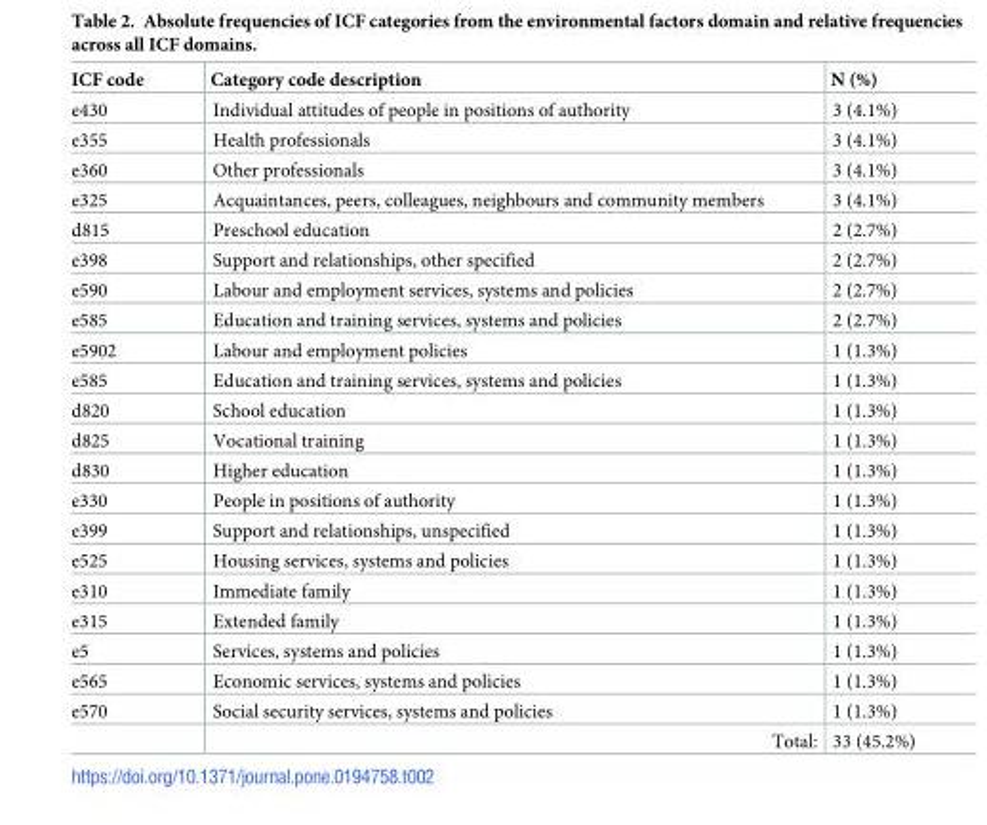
<table><thead><tr><td>ICF code</td><td>Category code description</td><td>N (%)</td></tr></thead><tbody><tr><td>e430</td><td>Individual attitudes of people in positions of authority</td><td>3 (4.1%)</td></tr><tr><td>e355</td><td>Health professionals</td><td>3 (4.1%)</td></tr><tr><td>e360</td><td>Other professionals</td><td>3 (4.1%)</td></tr><tr><td>e325</td><td>Acquaintances, peers, colleagues, neighbours and community members</td><td>3 (4.1%)</td></tr><tr><td>d815</td><td>Preschool education</td><td>2 (2.7%)</td></tr><tr><td>e398</td><td>Support and relationships, other specified</td><td>2 (2.7%)</td></tr><tr><td>e590</td><td>Labour and employment services, systems and policies</td><td>2 (2.7%)</td></tr><tr><td>e585</td><td>Education and training services, systems and policies</td><td>2 (2.7%)</td></tr><tr><td>e5902</td><td>Labour and employment policies</td><td>1 (1.3%)</td></tr><tr><td>e585</td><td>Education and training services, systems and policies</td><td>1 (1.3%)</td></tr><tr><td>d820</td><td>School education</td><td>1 (1.3%)</td></tr><tr><td>d825</td><td>Vocational training</td><td>1 (1.3%)</td></tr><tr><td>d830</td><td>Higher education</td><td>1 (1.3%)</td></tr><tr><td>e330</td><td>People in positions of authority</td><td>1 (1.3%)</td></tr><tr><td>e399</td><td>Support and relationships, unspecified</td><td>1 (1.3%)</td></tr><tr><td>e525</td><td>Housing services, systems and policies</td><td>1 (1.3%)</td></tr><tr><td>e310</td><td>Immediate family</td><td>1 (1.3%)</td></tr><tr><td>e315</td><td>Extended family</td><td>1 (1.3%)</td></tr><tr><td>e5</td><td>Services, systems and policies</td><td>1 (1.3%)</td></tr><tr><td>e565</td><td>Economic services, systems and policies</td><td>1 (1.3%)</td></tr><tr><td rowspan="2">e570</td><td>Social security services, systems and policies</td><td>1 (1.3%)</td></tr><tr><td>Total:</td><td>33 (45.2%)</td></tr></tbody></table>